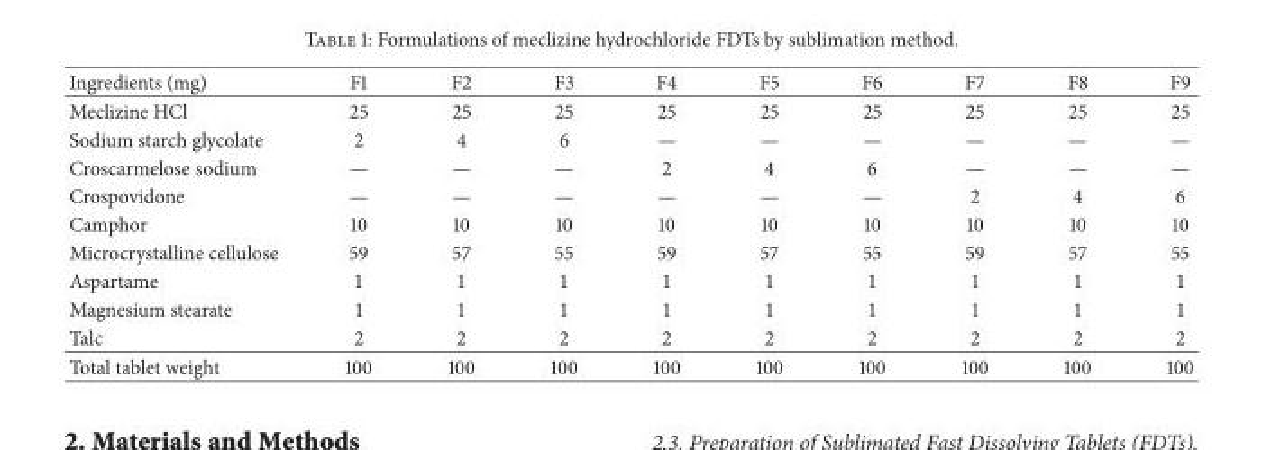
<table><thead><tr><td>Ingredients (mg)</td><td>F1</td><td>F2</td><td>F3</td><td>F4</td><td>F5</td><td>F6</td><td>F7</td><td>F8</td><td>F9</td></tr></thead><tbody><tr><td>Meclizine HCl</td><td>25</td><td>25</td><td>25</td><td>25</td><td>25</td><td>25</td><td>25</td><td>25</td><td>25</td></tr><tr><td>Sodium starch glycolate</td><td>2</td><td>4</td><td>6</td><td>—</td><td>—</td><td>—</td><td>—</td><td>—</td><td>—</td></tr><tr><td>Croscarmelose sodium</td><td>—</td><td>—</td><td>—</td><td>2</td><td>4</td><td>6</td><td>—</td><td>—</td><td>—</td></tr><tr><td>Crospovidone</td><td>—</td><td>—</td><td>—</td><td>—</td><td>—</td><td>—</td><td>2</td><td>4</td><td>6</td></tr><tr><td>Camphor</td><td>10</td><td>10</td><td>10</td><td>10</td><td>10</td><td>10</td><td>10</td><td>10</td><td>10</td></tr><tr><td>Microcrystalline cellulose</td><td>59</td><td>57</td><td>55</td><td>59</td><td>57</td><td>55</td><td>59</td><td>57</td><td>55</td></tr><tr><td>Aspartame</td><td>1</td><td>1</td><td>1</td><td>1</td><td>1</td><td>1</td><td>1</td><td>1</td><td>1</td></tr><tr><td>Magnesium stearate</td><td>1</td><td>1</td><td>1</td><td>1</td><td>1</td><td>1</td><td>1</td><td>1</td><td>1</td></tr><tr><td>Talc</td><td>2</td><td>2</td><td>2</td><td>2</td><td>2</td><td>2</td><td>2</td><td>2</td><td>2</td></tr><tr><td>Total tablet weight</td><td>100</td><td>100</td><td>100</td><td>100</td><td>100</td><td>100</td><td>100</td><td>100</td><td>100</td></tr></tbody></table>